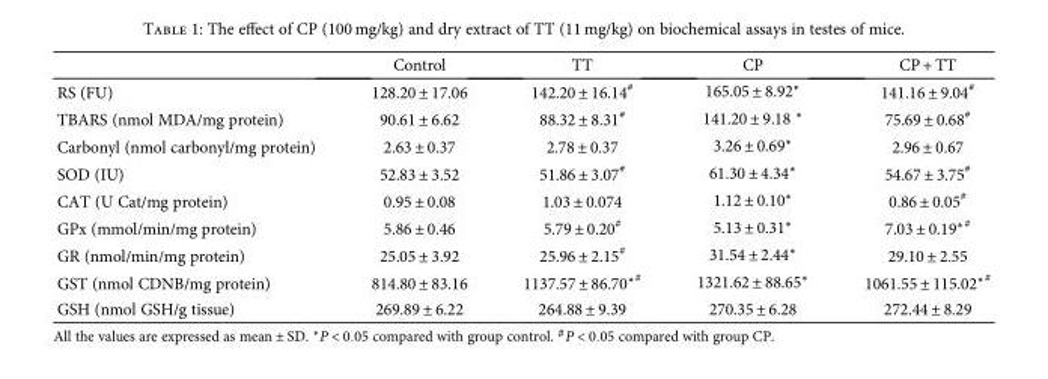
<table><thead><tr><td></td><td>Control</td><td>TT</td><td>CP</td><td>CP + TT</td></tr></thead><tbody><tr><td>RS (FU)</td><td>128.20 ± 17.06</td><td>142.20 ± 16.14<sup>#</sup></td><td>165.05 ± 8.92∗</td><td>141.16 ± 9.04<sup>#</sup></td></tr><tr><td>TBARS (nmol MDA/mg protein)</td><td>90.61 ± 6.62</td><td>88.32 ± 8.31<sup>#</sup></td><td>141.20 ± 9.18 ∗</td><td>75.69 ± 0.68<sup>#</sup></td></tr><tr><td>Carbonyl (nmol carbonyl/mg protein)</td><td>2.63 ± 0.37</td><td>2.78 ± 0.37</td><td>3.26 ± 0.69∗</td><td>2.96 ± 0.67</td></tr><tr><td>SOD (IU)</td><td>52.83 ± 3.52</td><td>51.86 ± 3.07<sup>#</sup></td><td>61.30 ± 4.34∗</td><td>54.67 ± 3.75<sup>#</sup></td></tr><tr><td>CAT (U Cat/mg protein)</td><td>0.95 ± 0.08</td><td>1.03 ± 0.074</td><td>1.12 ± 0.10∗</td><td>0.86 ± 0.05<sup>#</sup></td></tr><tr><td>GPx (mmol/min/mg protein)</td><td>5.86 ± 0.46</td><td>5.79 ± 0.20<sup>#</sup></td><td>5.13 ± 0.31∗</td><td>7.03 ± 0.19<sup>∗#</sup></td></tr><tr><td>GR (nmol/min/mg protein)</td><td>25.05 ± 3.92</td><td>25.96 ± 2.15<sup>#</sup></td><td>31.54 ± 2.44∗</td><td>29.10 ± 2.55</td></tr><tr><td>GST (nmol CDNB/mg protein)</td><td>814.80 ± 83.16</td><td>1137.57 ± 86.70<sup>∗#</sup></td><td>1321.62 ± 88.65∗</td><td>1061.55 ± 115.02<sup>∗#</sup></td></tr><tr><td>GSH (nmol GSH/g tissue)</td><td>269.89 ± 6.22</td><td>264.88 ± 9.39</td><td>270.35 ± 6.28</td><td>272.44 ± 8.29</td></tr></tbody></table>